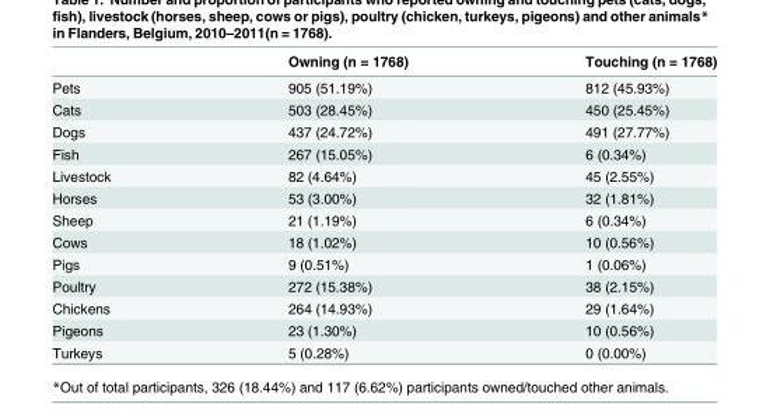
<table><thead><tr><td></td><td>Owning (n = 1768)</td><td>Touching (n = 1768)</td></tr></thead><tbody><tr><td>Pets</td><td>905 (51.19%)</td><td>812 (45.93%)</td></tr><tr><td>Cats</td><td>503 (28.45%)</td><td>450 (25.45%)</td></tr><tr><td>Dogs</td><td>437 (24.72%)</td><td>491 (27.77%)</td></tr><tr><td>Fish</td><td>267 (15.05%)</td><td>6 (0.34%)</td></tr><tr><td>Livestock</td><td>82 (4.64%)</td><td>45 (2.55%)</td></tr><tr><td>Horses</td><td>53 (3.00%)</td><td>32 (1.81%)</td></tr><tr><td>Sheep</td><td>21 (1.19%)</td><td>6 (0.34%)</td></tr><tr><td>Cows</td><td>18 (1.02%)</td><td>10 (0.56%)</td></tr><tr><td>Pigs</td><td>9 (0.51%)</td><td>1 (0.06%)</td></tr><tr><td>Poultry</td><td>272 (15.38%)</td><td>38 (2.15%)</td></tr><tr><td>Chickens</td><td>264 (14.93%)</td><td>29 (1.64%)</td></tr><tr><td>Pigeons</td><td>23 (1.30%)</td><td>10 (0.56%)</td></tr><tr><td>Turkeys</td><td>5 (0.28%)</td><td>0 (0.00%)</td></tr></tbody></table>